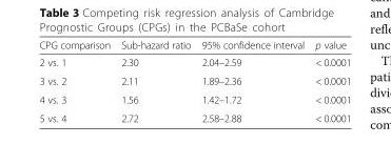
<table><thead><tr><td>CPG comparison</td><td>Sub-hazard ratio</td><td>95% confidence interval</td><td>p value</td></tr></thead><tbody><tr><td>2 vs. 1</td><td>2.30</td><td>2.04–2.59</td><td>&lt; 0.0001</td></tr><tr><td>3 vs. 2</td><td>2.11</td><td>1.89–2.36</td><td>&lt; 0.0001</td></tr><tr><td>4 vs. 3</td><td>1.56</td><td>1.42–1.72</td><td>&lt; 0.0001</td></tr><tr><td>5 vs. 4</td><td>2.72</td><td>2.58–2.88</td><td>&lt; 0.0001</td></tr></tbody></table>